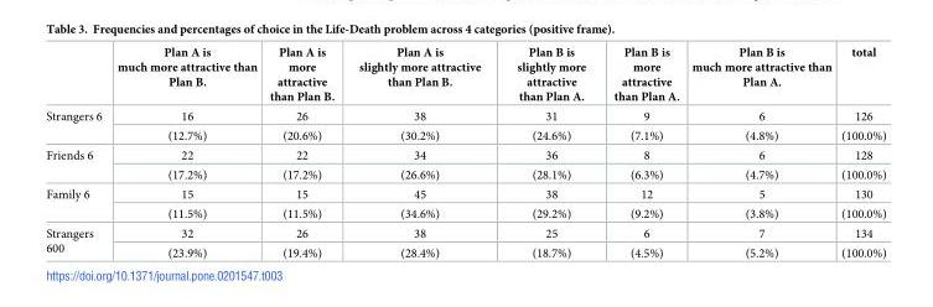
<table><thead><tr><td></td><td>Plan A is much more attractive than Plan B.</td><td>Plan A is more attractive than Plan B.</td><td>Plan A is slightly more attractive than Plan B.</td><td>Plan B is slightly more attractive than Plan A.</td><td>Plan B is more attractive than Plan A.</td><td>Plan B is much more attractive than Plan A.</td><td>total</td></tr></thead><tbody><tr><td rowspan="2">Strangers 6</td><td>16</td><td>26</td><td>38</td><td>31</td><td>9</td><td>6</td><td>126</td></tr><tr><td>(12.7%)</td><td>(20.6%)</td><td>(30.2%)</td><td>(24.6%)</td><td>(7.1%)</td><td>(4.8%)</td><td>(100.0%)</td></tr><tr><td rowspan="2">Friends 6</td><td>22</td><td>22</td><td>34</td><td>36</td><td>8</td><td>6</td><td>128</td></tr><tr><td>(17.2%)</td><td>(17.2%)</td><td>(26.6%)</td><td>(28.1%)</td><td>(6.3%)</td><td>(4.7%)</td><td>(100.0%)</td></tr><tr><td rowspan="2">Family 6</td><td>15</td><td>15</td><td>45</td><td>38</td><td>12</td><td>5</td><td>130</td></tr><tr><td>(11.5%)</td><td>(11.5%)</td><td>(34.6%)</td><td>(29.2%)</td><td>(9.2%)</td><td>(3.8%)</td><td>(100.0%)</td></tr><tr><td rowspan="2">Strangers 600</td><td>32</td><td>26</td><td>38</td><td>25</td><td>6</td><td>7</td><td>134</td></tr><tr><td>(23.9%)</td><td>(19.4%)</td><td>(28.4%)</td><td>(18.7%)</td><td>(4.5%)</td><td>(5.2%)</td><td>(100.0%)</td></tr></tbody></table>